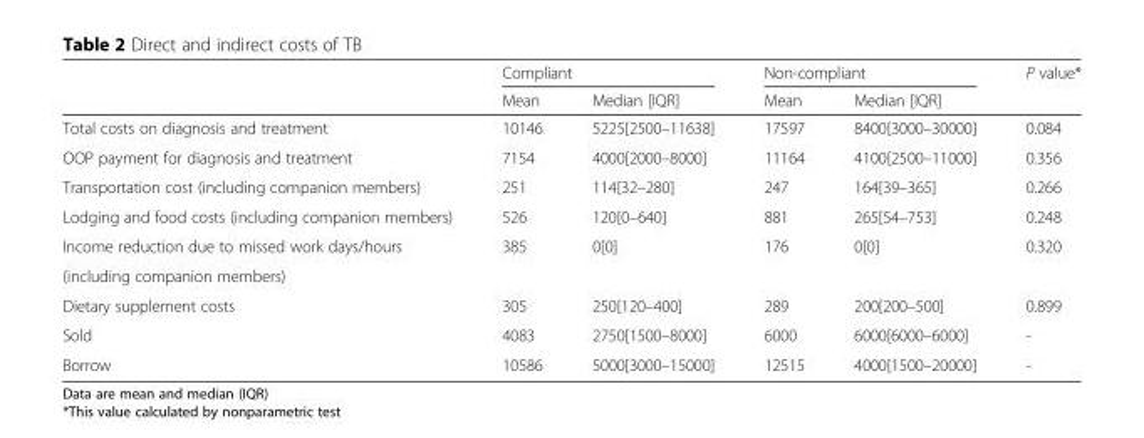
<table><thead><tr><td rowspan="2"></td><td colspan="2">Compliant</td><td colspan="2">Non-compliant</td><td rowspan="2">P value*</td></tr><tr><td>Mean</td><td>Median [IQR]</td><td>Mean</td><td>Median [IQR]</td></tr></thead><tbody><tr><td>Total costs on diagnosis and treatment</td><td>10146</td><td>5225[2500–11638]</td><td>17597</td><td>8400[3000–30000]</td><td>0.084</td></tr><tr><td>OOP payment for diagnosis and treatment</td><td>7154</td><td>4000[2000–8000]</td><td>11164</td><td>4100[2500–11000]</td><td>0.356</td></tr><tr><td>Transportation cost (including companion members)</td><td>251</td><td>114[32–280]</td><td>247</td><td>164[39–365]</td><td>0.266</td></tr><tr><td>Lodging and food costs (including companion members)</td><td>526</td><td>120[0–640]</td><td>881</td><td>265[54–753]</td><td>0.248</td></tr><tr><td>Income reduction due to missed work days/hours</td><td rowspan="2">385</td><td rowspan="2">0[0]</td><td rowspan="2">176</td><td rowspan="2">0[0]</td><td rowspan="2">0.320</td></tr><tr><td>(including companion members)</td></tr><tr><td>Dietary supplement costs</td><td>305</td><td>250[120–400]</td><td>289</td><td>200[200–500]</td><td>0.899</td></tr><tr><td>Sold</td><td>4083</td><td>2750[1500–8000]</td><td>6000</td><td>6000[6000–6000]</td><td>-</td></tr><tr><td>Borrow</td><td>10586</td><td>5000[3000–15000]</td><td>12515</td><td>4000[1500–20000]</td><td>-</td></tr></tbody></table>